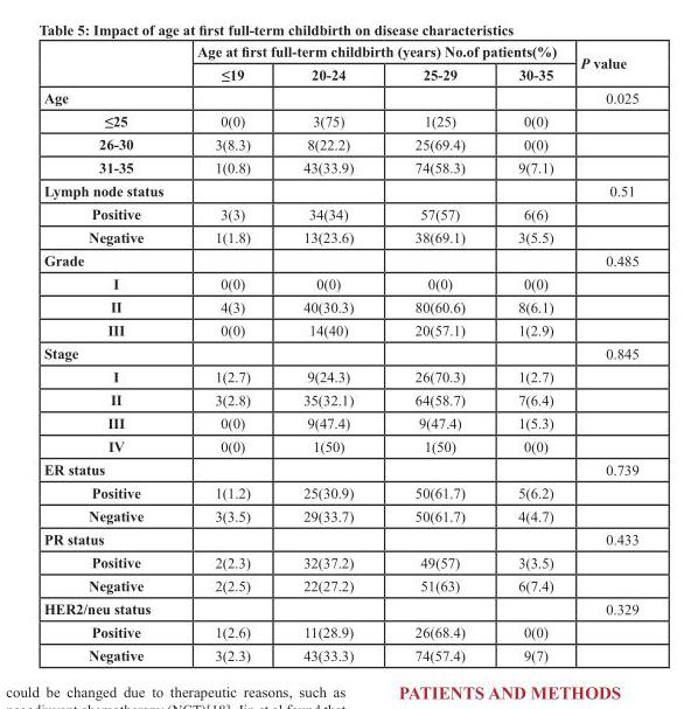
<table><thead><tr><td rowspan="2"></td><td colspan="4">Age at first full-term childbirth (years) No.of patients(%)</td><td rowspan="2">P value</td></tr><tr><td>≤19</td><td>20-24</td><td>25-29</td><td>30-35</td></tr></thead><tbody><tr><td>Age</td><td></td><td></td><td></td><td></td><td>0.025</td></tr><tr><td>≤25</td><td>0(0)</td><td>3(75)</td><td>1(25)</td><td>0(0)</td><td></td></tr><tr><td>26-30</td><td>3(8.3)</td><td>8(22.2)</td><td>25(69.4)</td><td>0(0)</td><td></td></tr><tr><td>31-35</td><td>1(0.8)</td><td>43(33.9)</td><td>74(58.3)</td><td>9(7.1)</td><td></td></tr><tr><td>Lymph node status</td><td></td><td></td><td></td><td></td><td>0.51</td></tr><tr><td>Positive</td><td>3(3)</td><td>34(34)</td><td>57(57)</td><td>6(6)</td><td></td></tr><tr><td>Negative</td><td>1(1.8)</td><td>13(23.6)</td><td>38(69.1)</td><td>3(5.5)</td><td></td></tr><tr><td>Grade</td><td></td><td></td><td></td><td></td><td>0.485</td></tr><tr><td>I</td><td>0(0)</td><td>0(0)</td><td>0(0)</td><td>0(0)</td><td></td></tr><tr><td>II</td><td>4(3)</td><td>40(30.3)</td><td>80(60.6)</td><td>8(6.1)</td><td></td></tr><tr><td>III</td><td>0(0)</td><td>14(40)</td><td>20(57.1)</td><td>1(2.9)</td><td></td></tr><tr><td>Stage</td><td></td><td></td><td></td><td></td><td>0.845</td></tr><tr><td>I</td><td>1(2.7)</td><td>9(24.3)</td><td>26(70.3)</td><td>1(2.7)</td><td></td></tr><tr><td>II</td><td>3(2.8)</td><td>35(32.1)</td><td>64(58.7)</td><td>7(6.4)</td><td></td></tr><tr><td>III</td><td>0(0)</td><td>9(47.4)</td><td>9(47.4)</td><td>1(5.3)</td><td></td></tr><tr><td>IV</td><td>0(0)</td><td>1(50)</td><td>1(50)</td><td>0(0)</td><td></td></tr><tr><td>ER status</td><td></td><td></td><td></td><td></td><td>0.739</td></tr><tr><td>Positive</td><td>1(1.2)</td><td>25(30.9)</td><td>50(61.7)</td><td>5(6.2)</td><td></td></tr><tr><td>Negative</td><td>3(3.5)</td><td>29(33.7)</td><td>50(61.7)</td><td>4(4.7)</td><td></td></tr><tr><td>PR status</td><td></td><td></td><td></td><td></td><td>0.433</td></tr><tr><td>Positive</td><td>2(2.3)</td><td>32(37.2)</td><td>49(57)</td><td>3(3.5)</td><td></td></tr><tr><td>Negative</td><td>2(2.5)</td><td>22(27.2)</td><td>51(63)</td><td>6(7.4)</td><td></td></tr><tr><td>HER2/neu status</td><td></td><td></td><td></td><td></td><td>0.329</td></tr><tr><td>Positive</td><td>1(2.6)</td><td>11(28.9)</td><td>26(68.4)</td><td>0(0)</td><td></td></tr><tr><td>Negative</td><td>3(2.3)</td><td>43(33.3)</td><td>74(57.4)</td><td>9(7)</td><td></td></tr></tbody></table>